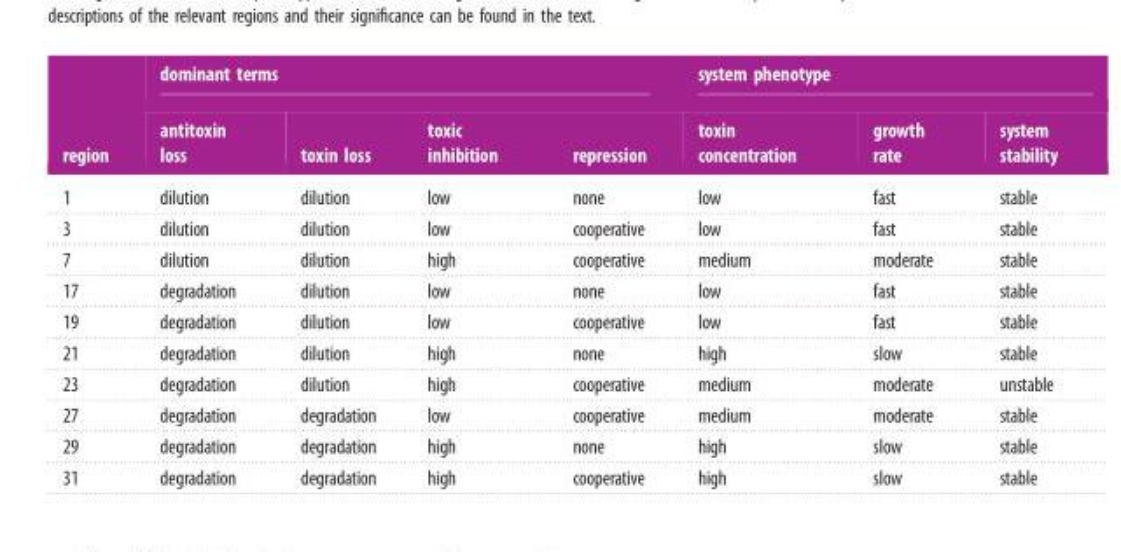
<table><thead><tr><td rowspan="2">region</td><td colspan="4">dominant terms</td><td colspan="3">system phenotype</td></tr><tr><td>antitoxin loss</td><td>toxin loss</td><td>toxic inhibition</td><td>repression</td><td>toxin concentration</td><td>growth rate</td><td>system stability</td></tr></thead><tbody><tr><td>1</td><td>dilution</td><td>dilution</td><td>low</td><td>none</td><td>low</td><td>fast</td><td>stable</td></tr><tr><td>3</td><td>dilution</td><td>dilution</td><td>low</td><td>cooperative</td><td>low</td><td>fast</td><td>stable</td></tr><tr><td>7</td><td>dilution</td><td>dilution</td><td>high</td><td>cooperative</td><td>medium</td><td>moderate</td><td>stable</td></tr><tr><td>17</td><td>degradation</td><td>dilution</td><td>low</td><td>none</td><td>low</td><td>fast</td><td>stable</td></tr><tr><td>19</td><td>degradation</td><td>dilution</td><td>low</td><td>cooperative</td><td>low</td><td>fast</td><td>stable</td></tr><tr><td>21</td><td>degradation</td><td>dilution</td><td>high</td><td>none</td><td>high</td><td>slow</td><td>stable</td></tr><tr><td>23</td><td>degradation</td><td>dilution</td><td>high</td><td>cooperative</td><td>medium</td><td>moderate</td><td>unstable</td></tr><tr><td>27</td><td>degradation</td><td>degradation</td><td>low</td><td>cooperative</td><td>medium</td><td>moderate</td><td>stable</td></tr><tr><td>29</td><td>degradation</td><td>degradation</td><td>high</td><td>none</td><td>high</td><td>slow</td><td>stable</td></tr><tr><td>31</td><td>degradation</td><td>degradation</td><td>high</td><td>cooperative</td><td>high</td><td>slow</td><td>stable</td></tr></tbody></table>